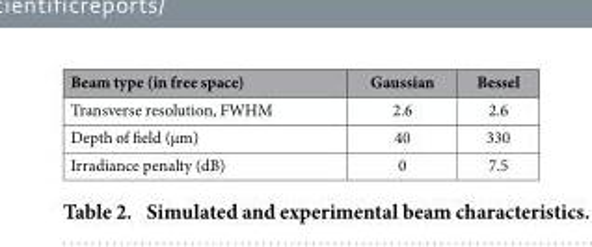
<table><thead><tr><td>Beam type (in free space)</td><td>Gaussian</td><td>Bessel</td></tr></thead><tbody><tr><td>Transverse resolution, FWHM</td><td>2.6</td><td>2.6</td></tr><tr><td>Depth of field (μm)</td><td>40</td><td>330</td></tr><tr><td>Irradiance penalty (dB)</td><td>0</td><td>7.5</td></tr></tbody></table>